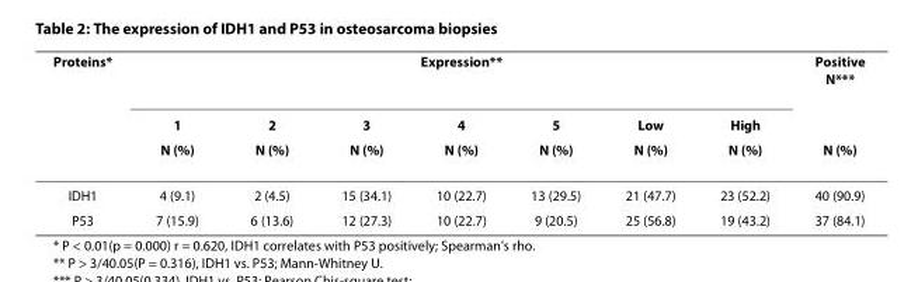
<table><thead><tr><td rowspan="3">Proteins*</td><td colspan="7">Expression**</td><td rowspan="3">Positive N*** N (%)</td></tr><tr><td rowspan="2">1 N (%)</td><td rowspan="2">2 N (%)</td><td rowspan="2">3 N (%)</td><td rowspan="2">4 N (%)</td><td rowspan="2">5 N (%)</td><td rowspan="2">Low N (%)</td><td rowspan="2">High N (%)</td></tr><tr></tr></thead><tbody><tr><td>IDH1</td><td>4 (9.1)</td><td>2 (4.5)</td><td>15 (34.1)</td><td>10 (22.7)</td><td>13 (29.5)</td><td>21 (47.7)</td><td>23 (52.2)</td><td>40 (90.9)</td></tr><tr><td>P53</td><td>7 (15.9)</td><td>6 (13.6)</td><td>12 (27.3)</td><td>10 (22.7)</td><td>9 (20.5)</td><td>25 (56.8)</td><td>19 (43.2)</td><td>37 (84.1)</td></tr></tbody></table>